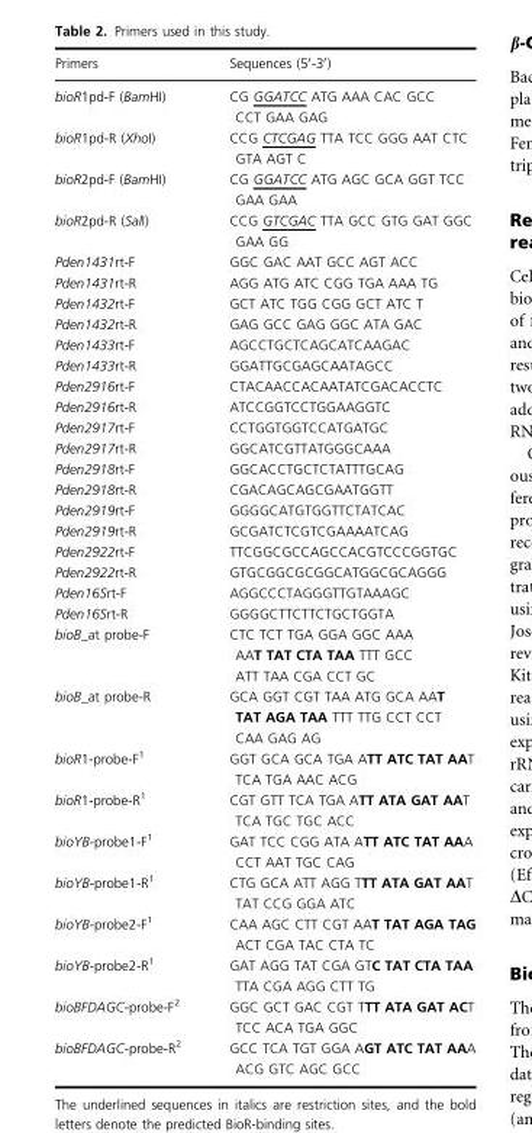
<table><thead><tr><td>Primers</td><td>Sequences (5′-3′)</td></tr></thead><tbody><tr><td>bioR1pd-F (BamHI)</td><td>CG GGATCC ATG AAA CAC GCC CCT GAA GAG</td></tr><tr><td>bioR1pd-R (XhoI)</td><td>CCG CTCGAG TTA TCC GGG AAT CTC GTA AGT C</td></tr><tr><td>bioR2pd-F (BamHI)</td><td>CG GGATCC ATG AGC GCA GGT TCC GAA GAA</td></tr><tr><td>bioR2pd-R (SalI)</td><td>CCG GTCGAC TTA GCC GTG GAT GGC GAA GG</td></tr><tr><td>Pden1431rt-F</td><td>GGC GAC AAT GCC AGT ACC</td></tr><tr><td>Pden1431rt-R</td><td>AGG ATG ATC CGG TGA AAA TG</td></tr><tr><td>Pden1432rt-F</td><td>GCT ATC TGG CGG GCT ATC T</td></tr><tr><td>Pden1432rt-R</td><td>GAG GCC GAG GGC ATA GAC</td></tr><tr><td>Pden1433rt-F</td><td>AGCCTGCTCAGCATCAAGAC</td></tr><tr><td>Pden1433rt-R</td><td>GGATTGCGAGCAATAGCC</td></tr><tr><td>Pden2916rt-F</td><td>CTACAACCACAATATCGACACCTC</td></tr><tr><td>Pden2916rt-R</td><td>ATCCGGTCCTGGAAGGTC</td></tr><tr><td>Pden2917rt-F</td><td>CCTGGTGGTCCATGATGC</td></tr><tr><td>Pden2917rt-R</td><td>GGCATCGTTATGGGCAAA</td></tr><tr><td>Pden2918rt-F</td><td>GGCACCTGCTCTATTTGCAG</td></tr><tr><td>Pden2918rt-R</td><td>CGACAGCAGCGAATGGTT</td></tr><tr><td>Pden2919rt-F</td><td>GGGGCATGTGGTTCTATCAC</td></tr><tr><td>Pden2919rt-R</td><td>GCGATCTCGTCGAAAATCAG</td></tr><tr><td>Pden2922rt-F</td><td>TTCGGCGCCAGCCACGTCCCGGTGC</td></tr><tr><td>Pden2922rt-R</td><td>GTGCGGCGCGGCATGGCGCAGGG</td></tr><tr><td>Pden16Srt-F</td><td>AGGCCCTAGGGTTGTAAAGC</td></tr><tr><td>Pden16Srt-R</td><td>GGGGCTTCTTCTGCTGGTA</td></tr><tr><td>bioB_at probe-F</td><td>CTC TCT TGA GGA GGC AAA AAT TAT CTA TAA TTT GCC ATT TAA CGA CCT GC</td></tr><tr><td>bioB_at probe-R</td><td>GCA GGT CGT TAA ATG GCA AAT TAT AGA TAA TTT TTG CCT CCT CAA GAG AG</td></tr><tr><td>bioR1-probe-F<sup>1</sup></td><td>GGT GCA GCA TGA ATT ATC TAT AAT TCA TGA AAC ACG</td></tr><tr><td>bioR1-probe-R<sup>1</sup></td><td>CGT GTT TCA TGA ATT ATA GAT AAT TCA TGC TGC ACC</td></tr><tr><td>bioYB-probe1-F<sup>1</sup></td><td>GAT TCC CGG ATA ATT ATC TAT AAA CCT AAT TGC CAG</td></tr><tr><td>bioYB-probe1-R<sup>1</sup></td><td>CTG GCA ATT AGG TTT ATA GAT AAT TAT CCG GGA ATC</td></tr><tr><td>bioYB-probe2-F<sup>1</sup></td><td>CAA AGC CTT CGT AAT TAT AGA TAG ACT CGA TAC CTA TC</td></tr><tr><td>bioYB-probe2-R<sup>1</sup></td><td>GAT AGG TAT CGA GTC TAT CTA TAA TTA CGA AGG CTT TG</td></tr><tr><td>bioBFDAGC-probe-F<sup>2</sup></td><td>GGC GCT GAC CGT TTT ATA GAT ACT TCC ACA TGA GGC</td></tr><tr><td>bioBFDAGC-probe-R<sup>2</sup></td><td>GCC TCA TGT GGA AGT ATC TAT AAA ACG GTC AGC GCC</td></tr></tbody></table>